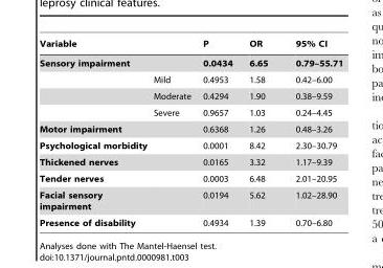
<table><thead><tr><td colspan="2">Variable</td><td rowspan="2">P 0.0434</td><td rowspan="2">OR 6.65</td><td rowspan="2">95% CI 0.79–55.71</td></tr><tr><td>Sensory impairment</td><td></td></tr></thead><tbody><tr><td></td><td>Mild</td><td>0.4953</td><td>1.58</td><td>0.42–6.00</td></tr><tr><td></td><td>Moderate</td><td>0.4294</td><td>1.90</td><td>0.38–9.59</td></tr><tr><td></td><td>Severe</td><td>0.9657</td><td>1.03</td><td>0.24–4.45</td></tr><tr><td>Motor impairment</td><td></td><td>0.6368</td><td>1.26</td><td>0.48–3.26</td></tr><tr><td>Psychological morbidity</td><td></td><td>0.0001</td><td>8.42</td><td>2.30–30.79</td></tr><tr><td>Thickened nerves</td><td></td><td>0.0165</td><td>3.32</td><td>1.17–9.39</td></tr><tr><td>Tender nerves</td><td></td><td>0.0003</td><td>6.48</td><td>2.01–20.95</td></tr><tr><td>Facial sensory impairment</td><td></td><td>0.0194</td><td>5.62</td><td>1.02–28.90</td></tr><tr><td>Presence of disability</td><td></td><td>0.4934</td><td>1.39</td><td>0.70–6.80</td></tr></tbody></table>